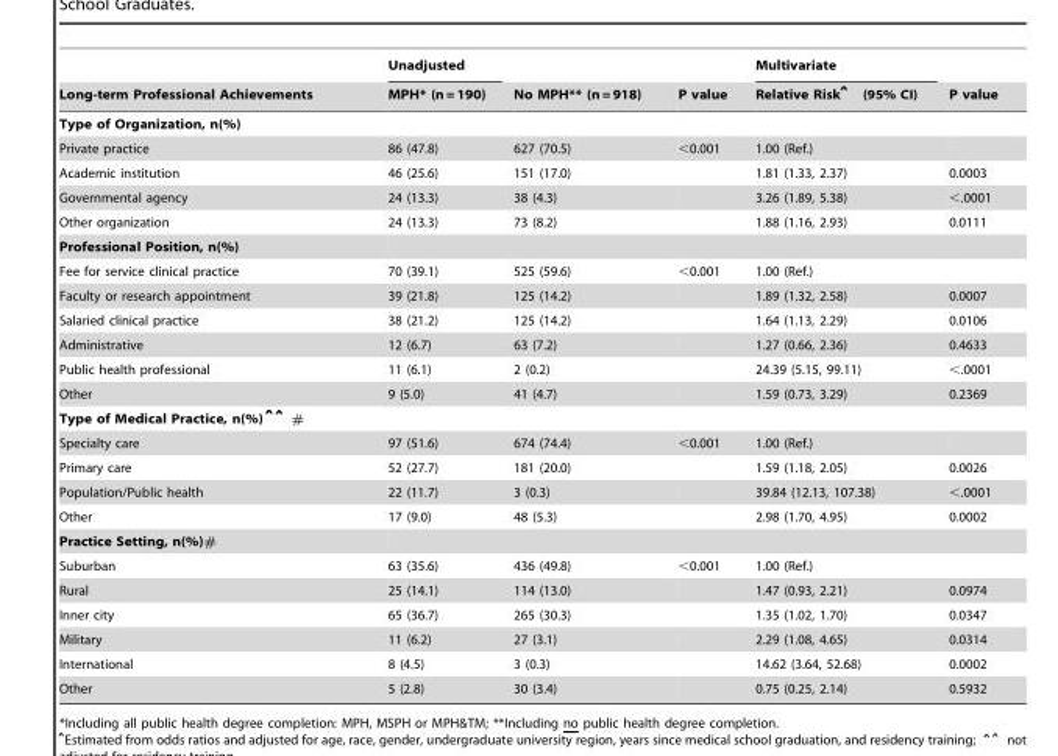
<table><thead><tr><td rowspan="2">Long-term Professional Achievements</td><td rowspan="2">Unadjusted MPH* (n = 190)</td><td rowspan="2">No MPH** (n = 918)</td><td rowspan="2">P value</td><td rowspan="2">Multivariate Relative Riskˆ (95% CI)</td><td rowspan="2">P value</td></tr><tr></tr></thead><tbody><tr><td colspan="6">Type of Organization, n(%)</td></tr><tr><td>Private practice</td><td>86 (47.8)</td><td>627 (70.5)</td><td>&lt;0.001</td><td>1.00 (Ref.)</td><td></td></tr><tr><td>Academic institution</td><td>46 (25.6)</td><td>151 (17.0)</td><td></td><td>1.81 (1.33, 2.37)</td><td>0.0003</td></tr><tr><td>Governmental agency</td><td>24 (13.3)</td><td>38 (4.3)</td><td></td><td>3.26 (1.89, 5.38)</td><td>&lt;.0001</td></tr><tr><td>Other organization</td><td>24 (13.3)</td><td>73 (8.2)</td><td></td><td>1.88 (1.16, 2.93)</td><td>0.0111</td></tr><tr><td colspan="6">Professional Position, n(%)</td></tr><tr><td>Fee for service clinical practice</td><td>70 (39.1)</td><td>525 (59.6)</td><td>&lt;0.001</td><td>1.00 (Ref.)</td><td></td></tr><tr><td>Faculty or research appointment</td><td>39 (21.8)</td><td>125 (14.2)</td><td></td><td>1.89 (1.32, 2.58)</td><td>0.0007</td></tr><tr><td>Salaried clinical practice</td><td>38 (21.2)</td><td>125 (14.2)</td><td></td><td>1.64 (1.13, 2.29)</td><td>0.0106</td></tr><tr><td>Administrative</td><td>12 (6.7)</td><td>63 (7.2)</td><td></td><td>1.27 (0.66, 2.36)</td><td>0.4633</td></tr><tr><td>Public health professional</td><td>11 (6.1)</td><td>2 (0.2)</td><td></td><td>24.39 (5.15, 99.11)</td><td>&lt;.0001</td></tr><tr><td>Other</td><td>9 (5.0)</td><td>41 (4.7)</td><td></td><td>1.59 (0.73, 3.29)</td><td>0.2369</td></tr><tr><td colspan="6">Type of Medical Practice, n(%)ˆˆ #</td></tr><tr><td>Specialty care</td><td>97 (51.6)</td><td>674 (74.4)</td><td>&lt;0.001</td><td>1.00 (Ref.)</td><td></td></tr><tr><td>Primary care</td><td>52 (27.7)</td><td>181 (20.0)</td><td></td><td>1.59 (1.18, 2.05)</td><td>0.0026</td></tr><tr><td>Population/Public health</td><td>22 (11.7)</td><td>3 (0.3)</td><td></td><td>39.84 (12.13, 107.38)</td><td>&lt;.0001</td></tr><tr><td>Other</td><td>17 (9.0)</td><td>48 (5.3)</td><td></td><td>2.98 (1.70, 4.95)</td><td>0.0002</td></tr><tr><td colspan="6">Practice Setting, n(%)#</td></tr><tr><td>Suburban</td><td>63 (35.6)</td><td>436 (49.8)</td><td>&lt;0.001</td><td>1.00 (Ref.)</td><td></td></tr><tr><td>Rural</td><td>25 (14.1)</td><td>114 (13.0)</td><td></td><td>1.47 (0.93, 2.21)</td><td>0.0974</td></tr><tr><td>Inner city</td><td>65 (36.7)</td><td>265 (30.3)</td><td></td><td>1.35 (1.02, 1.70)</td><td>0.0347</td></tr><tr><td>Military</td><td>11 (6.2)</td><td>27 (3.1)</td><td></td><td>2.29 (1.08, 4.65)</td><td>0.0314</td></tr><tr><td>International</td><td>8 (4.5)</td><td>3 (0.3)</td><td></td><td>14.62 (3.64, 52.68)</td><td>0.0002</td></tr><tr><td>Other</td><td>5 (2.8)</td><td>30 (3.4)</td><td></td><td>0.75 (0.25, 2.14)</td><td>0.5932</td></tr></tbody></table>